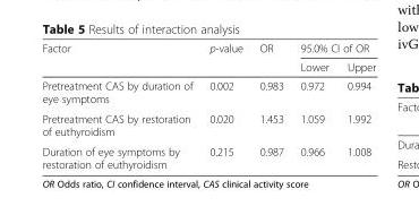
<table><thead><tr><td rowspan="2">Factor</td><td rowspan="2">p-value</td><td rowspan="2">OR</td><td colspan="2">95.0% CI of OR</td></tr><tr><td>Lower</td><td>Upper</td></tr></thead><tbody><tr><td>Pretreatment CAS by duration of eye symptoms</td><td>0.002</td><td>0.983</td><td>0.972</td><td>0.994</td></tr><tr><td>Pretreatment CAS by restoration of euthyroidism</td><td>0.020</td><td>1.453</td><td>1.059</td><td>1.992</td></tr><tr><td>Duration of eye symptoms by restoration of euthyroidism</td><td>0.215</td><td>0.987</td><td>0.966</td><td>1.008</td></tr></tbody></table>